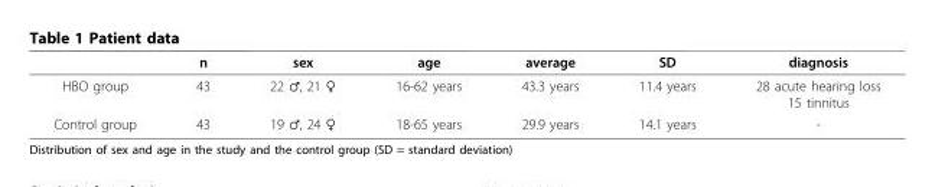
<table><thead><tr><td></td><td>n</td><td>sex</td><td>age</td><td>average</td><td>SD</td><td>diagnosis</td></tr></thead><tbody><tr><td>HBO group</td><td>43</td><td>22 ♂, 21 ♀</td><td>16-62 years</td><td>43.3 years</td><td>11.4 years</td><td>28 acute hearing loss 15 tinnitus</td></tr><tr><td>Control group</td><td>43</td><td>19 ♂, 24 ♀</td><td>18-65 years</td><td>29.9 years</td><td>14.1 years</td><td>-</td></tr></tbody></table>